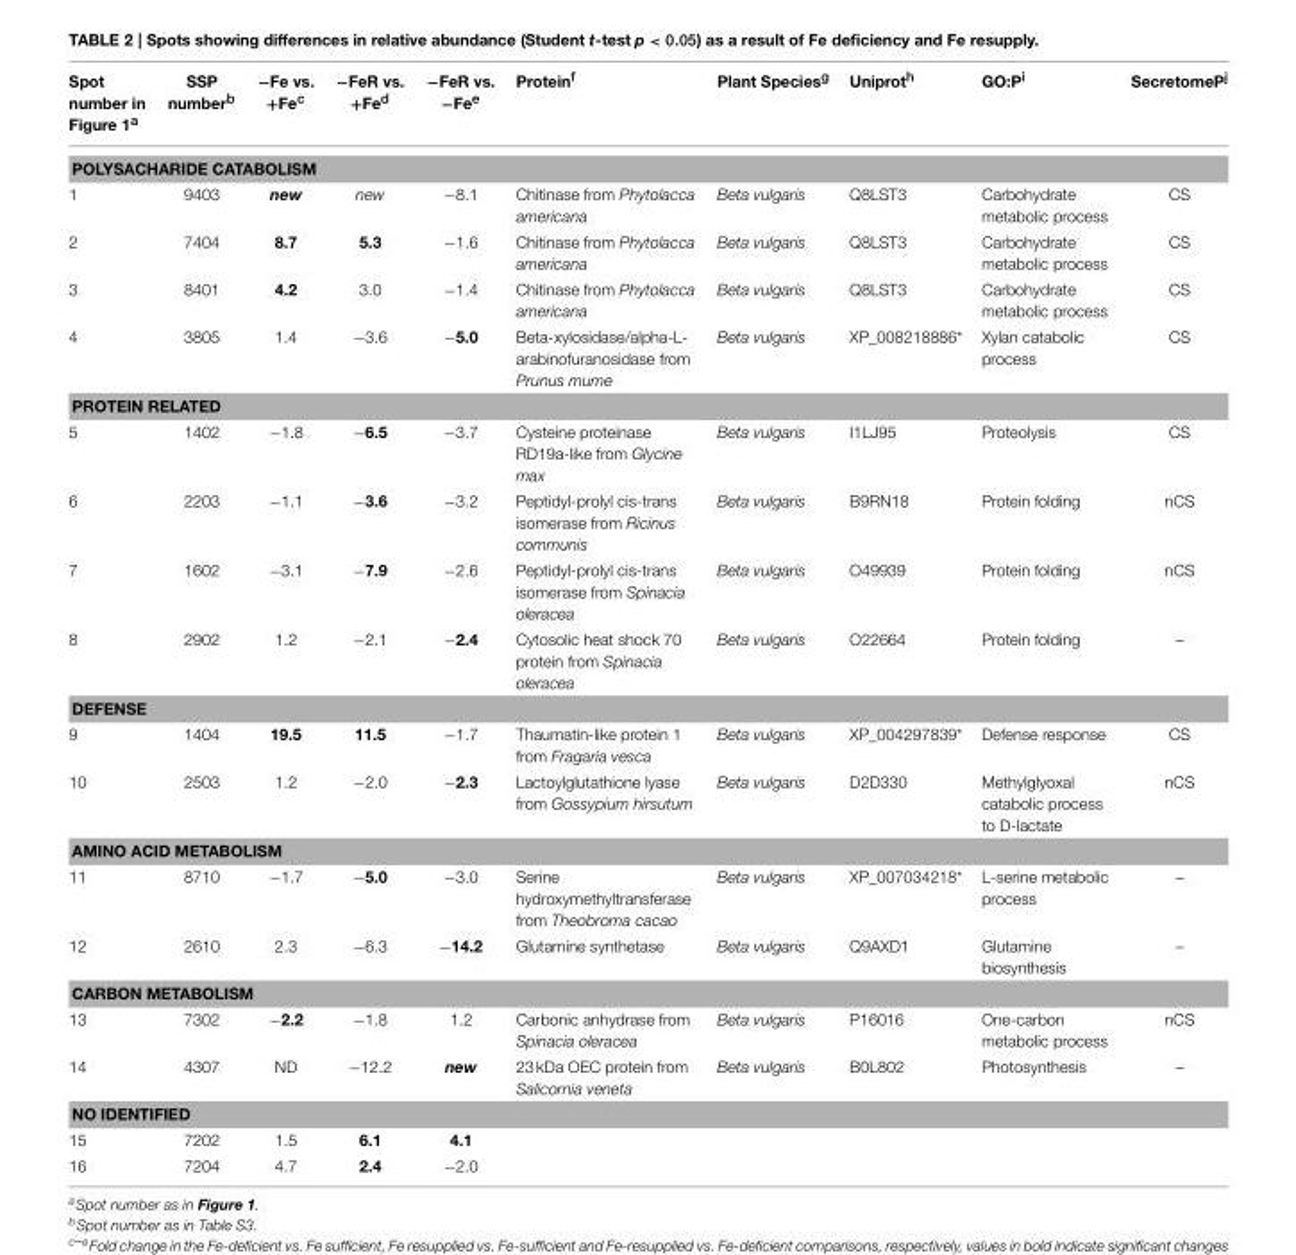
<table><thead><tr><td>Spot number in Figure 1<sup>a</sup></td><td>SSP number<sup>b</sup></td><td>−Fe vs. +Fe<sup>c</sup></td><td>−FeR vs. +Fe<sup>d</sup></td><td>−FeR vs. −Fe<sup>e</sup></td><td>Protein<sup>f</sup></td><td>Plant Species<sup>g</sup></td><td>Uniprot<sup>h</sup></td><td>GO:P<sup>i</sup></td><td>SecretomeP<sup>j</sup></td></tr></thead><tbody><tr><td colspan="10">POLYSACHARIDE CATABOLISM</td></tr><tr><td>1</td><td>9403</td><td>new</td><td>new</td><td>−8.1</td><td>Chitinase from Phytolacca americana</td><td>Beta vulgaris</td><td>Q8LST3</td><td>Carbohydrate metabolic process</td><td>CS</td></tr><tr><td>2</td><td>7404</td><td>8.7</td><td>5.3</td><td>−1.6</td><td>Chitinase from Phytolacca americana</td><td>Beta vulgaris</td><td>Q8LST3</td><td>Carbohydrate metabolic process</td><td>CS</td></tr><tr><td>3</td><td>8401</td><td>4.2</td><td>3.0</td><td>−1.4</td><td>Chitinase from Phytolacca americana</td><td>Beta vulgaris</td><td>Q8LST3</td><td>Carbohydrate metabolic process</td><td>CS</td></tr><tr><td>4</td><td>3805</td><td>1.4</td><td>−3.6</td><td>−5.0</td><td>Beta-xylosidase/alpha-L- arabinofuranosidase from Prunus mume</td><td>Beta vulgaris</td><td>XP_008218886*</td><td>Xylan catabolic process</td><td>CS</td></tr><tr><td colspan="10">PROTEIN RELATED</td></tr><tr><td>5</td><td>1402</td><td>−1.8</td><td>−6.5</td><td>−3.7</td><td>Cysteine proteinase RD19a-like from Glycine max</td><td>Beta vulgaris</td><td>I1LJ95</td><td>Proteolysis</td><td>CS</td></tr><tr><td>6</td><td>2203</td><td>−1.1</td><td>−3.6</td><td>−3.2</td><td>Peptidyl-prolyl cis-trans isomerase from Ricinus communis</td><td>Beta vulgaris</td><td>B9RN18</td><td>Protein folding</td><td>nCS</td></tr><tr><td>7</td><td>1602</td><td>−3.1</td><td>−7.9</td><td>−2.6</td><td>Peptidyl-prolyl cis-trans isomerase from Spinacia oleracea</td><td>Beta vulgaris</td><td>O49939</td><td>Protein folding</td><td>nCS</td></tr><tr><td>8</td><td>2902</td><td>1.2</td><td>−2.1</td><td>−2.4</td><td>Cytosolic heat shock 70 protein from Spinacia oleracea</td><td>Beta vulgaris</td><td>O22664</td><td>Protein folding</td><td>–</td></tr><tr><td colspan="10">DEFENSE</td></tr><tr><td>9</td><td>1404</td><td>19.5</td><td>11.5</td><td>−1.7</td><td>Thaumatin-like protein 1 from Fragaria vesca</td><td>Beta vulgaris</td><td>XP_004297839*</td><td>Defense response</td><td>CS</td></tr><tr><td>10</td><td>2503</td><td>1.2</td><td>−2.0</td><td>−2.3</td><td>Lactoylglutathione lyase from Gossypium hirsutum</td><td>Beta vulgaris</td><td>D2D330</td><td>Methylglyoxal catabolic process to D-lactate</td><td>nCS</td></tr><tr><td colspan="10">AMINO ACID METABOLISM</td></tr><tr><td>11</td><td>8710</td><td>−1.7</td><td>−5.0</td><td>−3.0</td><td>Serine hydroxymethyltransferase from Theobroma cacao</td><td>Beta vulgaris</td><td>XP_007034218*</td><td>L-serine metabolic process</td><td>–</td></tr><tr><td>12</td><td>2610</td><td>2.3</td><td>−6.3</td><td>−14.2</td><td>Glutamine synthetase</td><td>Beta vulgaris</td><td>Q9AXD1</td><td>Glutamine biosynthesis</td><td>–</td></tr><tr><td colspan="10">CARBON METABOLISM</td></tr><tr><td>13</td><td>7302</td><td>−2.2</td><td>−1.8</td><td>1.2</td><td>Carbonic anhydrase from Spinacia oleracea</td><td>Beta vulgaris</td><td>P16016</td><td>One-carbon metabolic process</td><td>nCS</td></tr><tr><td>14</td><td>4307</td><td>ND</td><td>−12.2</td><td>new</td><td>23 kDa OEC protein from Salicornia veneta</td><td>Beta vulgaris</td><td>B0L802</td><td>Photosynthesis</td><td>–</td></tr><tr><td colspan="10">NO IDENTIFIED</td></tr><tr><td>15</td><td>7202</td><td>1.5</td><td>6.1</td><td>4.1</td><td></td><td></td><td></td><td></td><td></td></tr><tr><td>16</td><td>7204</td><td>4.7</td><td>2.4</td><td>−2.0</td><td></td><td></td><td></td><td></td><td></td></tr></tbody></table>